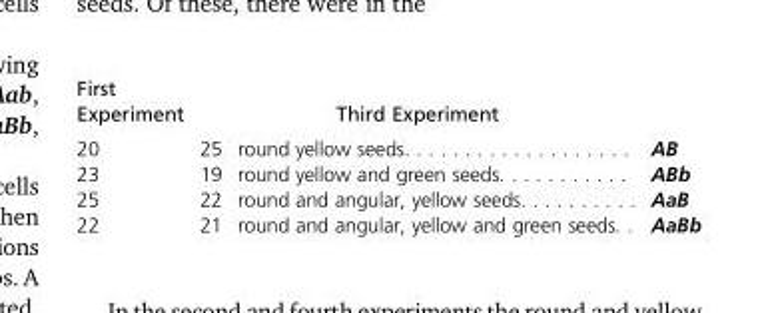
<table><thead><tr><td rowspan="2">First Experiment 20</td><td colspan="2">Third Experiment</td><td rowspan="2">AB</td></tr><tr><td>25</td><td>round yellow seeds. . . . . . . . . . . . . . . . . . .</td></tr></thead><tbody><tr><td>23</td><td>19</td><td>round yellow and green seeds. . . . . . . . . . .</td><td>ABb</td></tr><tr><td>25</td><td>22</td><td>round and angular, yellow seeds. . . . . . . . . .</td><td>AaB</td></tr><tr><td>22</td><td>21</td><td>round and angular, yellow and green seeds. .</td><td>AaBb</td></tr></tbody></table>